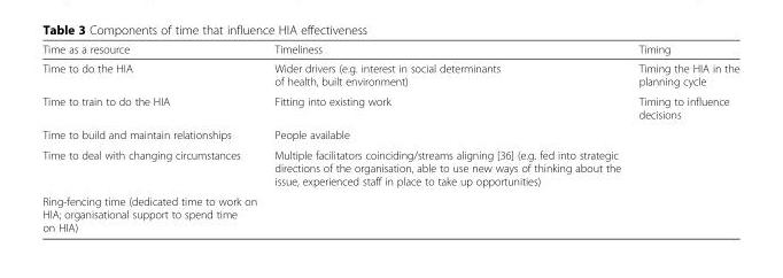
<table><thead><tr><td>Time as a resource</td><td>Timeliness</td><td>Timing</td></tr></thead><tbody><tr><td>Time to do the HIA</td><td>Wider drivers (e.g. interest in social determinants of health, built environment)</td><td>Timing the HIA in the planning cycle</td></tr><tr><td>Time to train to do the HIA</td><td>Fitting into existing work</td><td>Timing to influence decisions</td></tr><tr><td>Time to build and maintain relationships</td><td>People available</td><td></td></tr><tr><td>Time to deal with changing circumstances</td><td>Multiple facilitators coinciding/streams aligning [36] (e.g. fed into strategic directions of the organisation, able to use new ways of thinking about the issue, experienced staff in place to take up opportunities)</td><td></td></tr><tr><td>Ring-fencing time (dedicated time to work on HIA; organisational support to spend time on HIA)</td><td></td><td></td></tr></tbody></table>